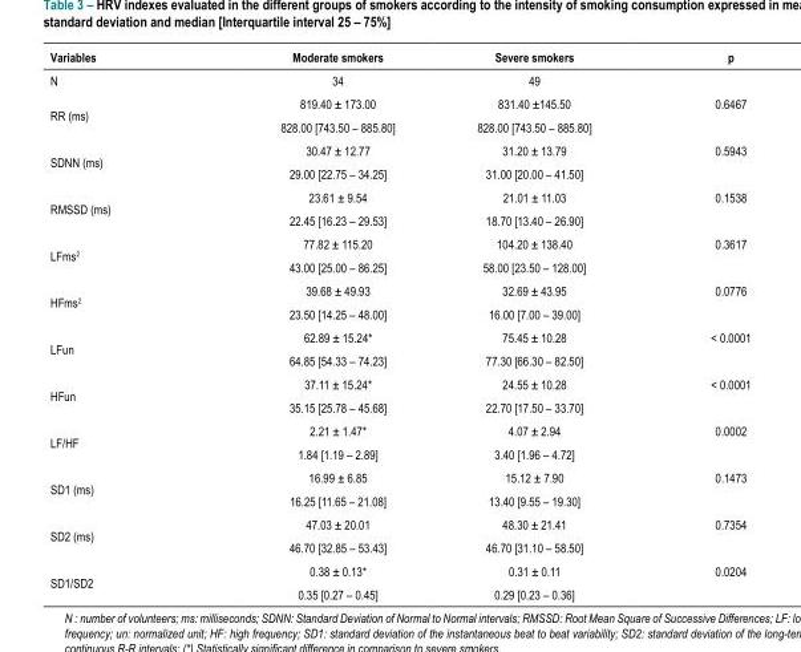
<table><thead><tr><td>Variables</td><td>Moderate smokers</td><td>Severe smokers</td><td>p</td></tr></thead><tbody><tr><td>N</td><td>34</td><td>49</td><td></td></tr><tr><td rowspan="2">RR (ms)</td><td>819.40 ± 173.00</td><td>831.40 ±145.50</td><td>0.6467</td></tr><tr><td>828.00 [743.50 – 885.80]</td><td>828.00 [743.50 – 885.80]</td><td></td></tr><tr><td rowspan="2">SDNN (ms)</td><td>30.47 ± 12.77</td><td>31.20 ± 13.79</td><td>0.5943</td></tr><tr><td>29.00 [22.75 – 34.25]</td><td>31.00 [20.00 – 41.50]</td><td></td></tr><tr><td rowspan="2">RMSSD (ms)</td><td>23.61 ± 9.54</td><td>21.01 ± 11.03</td><td>0.1538</td></tr><tr><td>22.45 [16.23 – 29.53]</td><td>18.70 [13.40 – 26.90]</td><td></td></tr><tr><td rowspan="2">LFms2</td><td>77.82 ± 115.20</td><td>104.20 ± 138.40</td><td>0.3617</td></tr><tr><td>43.00 [25.00 – 86.25]</td><td>58.00 [23.50 – 128.00]</td><td></td></tr><tr><td rowspan="2">HFms2</td><td>39.68 ± 49.93</td><td>32.69 ± 43.95</td><td>0.0776</td></tr><tr><td>23.50 [14.25 – 48.00]</td><td>16.00 [7.00 – 39.00]</td><td></td></tr><tr><td rowspan="2">LFun</td><td>62.89 ± 15.24*</td><td>75.45 ± 10.28</td><td>&lt; 0.0001</td></tr><tr><td>64.85 [54.33 – 74.23]</td><td>77.30 [66.30 – 82.50]</td><td></td></tr><tr><td rowspan="2">HFun</td><td>37.11 ± 15.24*</td><td>24.55 ± 10.28</td><td>&lt; 0.0001</td></tr><tr><td>35.15 [25.78 – 45.68]</td><td>22.70 [17.50 – 33.70]</td><td></td></tr><tr><td rowspan="2">LF/HF</td><td>2.21 ± 1.47*</td><td>4.07 ± 2.94</td><td>0.0002</td></tr><tr><td>1.84 [1.19 – 2.89]</td><td>3.40 [1.96 – 4.72]</td><td></td></tr><tr><td rowspan="2">SD1 (ms)</td><td>16.99 ± 6.85</td><td>15.12 ± 7.90</td><td>0.1473</td></tr><tr><td>16.25 [11.65 – 21.08]</td><td>13.40 [9.55 – 19.30]</td><td></td></tr><tr><td rowspan="2">SD2 (ms)</td><td>47.03 ± 20.01</td><td>48.30 ± 21.41</td><td>0.7354</td></tr><tr><td>46.70 [32.85 – 53.43]</td><td>46.70 [31.10 – 58.50]</td><td></td></tr><tr><td rowspan="2">SD1/SD2</td><td>0.38 ± 0.13*</td><td>0.31 ± 0.11</td><td>0.0204</td></tr><tr><td>0.35 [0.27 – 0.45]</td><td>0.29 [0.23 – 0.36]</td><td></td></tr></tbody></table>